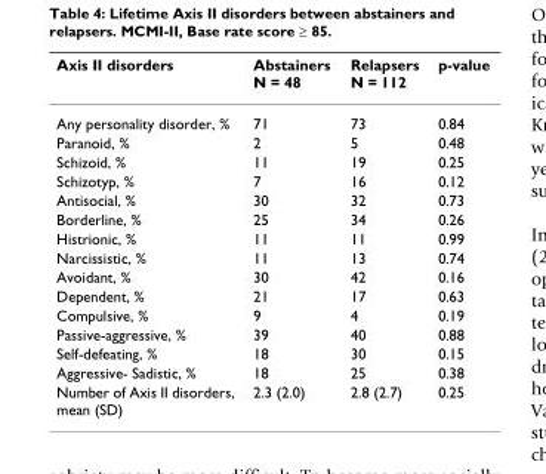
<table><thead><tr><td>Axis II disorders</td><td>Abstainers N = 48</td><td>Relapsers N = 112</td><td>p-value</td></tr></thead><tbody><tr><td>Any personality disorder, %</td><td>71</td><td>73</td><td>0.84</td></tr><tr><td>Paranoid, %</td><td>2</td><td>5</td><td>0.48</td></tr><tr><td>Schizoid, %</td><td>11</td><td>19</td><td>0.25</td></tr><tr><td>Schizotyp, %</td><td>7</td><td>16</td><td>0.12</td></tr><tr><td>Antisocial, %</td><td>30</td><td>32</td><td>0.73</td></tr><tr><td>Borderline, %</td><td>25</td><td>34</td><td>0.26</td></tr><tr><td>Histrionic, %</td><td>11</td><td>11</td><td>0.99</td></tr><tr><td>Narcissistic, %</td><td>11</td><td>13</td><td>0.74</td></tr><tr><td>Avoidant, %</td><td>30</td><td>42</td><td>0.16</td></tr><tr><td>Dependent, %</td><td>21</td><td>17</td><td>0.63</td></tr><tr><td>Compulsive, %</td><td>9</td><td>4</td><td>0.19</td></tr><tr><td>Passive-aggressive, %</td><td>39</td><td>40</td><td>0.88</td></tr><tr><td>Self-defeating, %</td><td>18</td><td>30</td><td>0.15</td></tr><tr><td>Aggressive- Sadistic, %</td><td>18</td><td>25</td><td>0.38</td></tr><tr><td>Number of Axis II disorders, mean (SD)</td><td>2.3 (2.0)</td><td>2.8 (2.7)</td><td>0.25</td></tr></tbody></table>